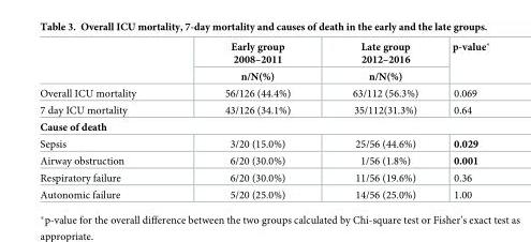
<table><thead><tr><td rowspan="2"></td><td rowspan="2">Early group 2008–2011 n/N(%)</td><td rowspan="2">Late group 2012–2016 n/N(%)</td><td rowspan="2">p-value*</td></tr><tr></tr></thead><tbody><tr><td>Overall ICU mortality</td><td>56/126 (44.4%)</td><td>63/112 (56.3%)</td><td>0.069</td></tr><tr><td>7 day ICU mortality</td><td>43/126 (34.1%)</td><td>35/112(31.3%)</td><td>0.64</td></tr><tr><td colspan="4">Cause of death</td></tr><tr><td>Sepsis</td><td>3/20 (15.0%)</td><td>25/56 (44.6%)</td><td>0.029</td></tr><tr><td>Airway obstruction</td><td>6/20 (30.0%)</td><td>1/56 (1.8%)</td><td>0.001</td></tr><tr><td>Respiratory failure</td><td>6/20 (30.0%)</td><td>11/56 (19.6%)</td><td>0.36</td></tr><tr><td>Autonomic failure</td><td>5/20 (25.0%)</td><td>14/56 (25.0%)</td><td>1.00</td></tr></tbody></table>